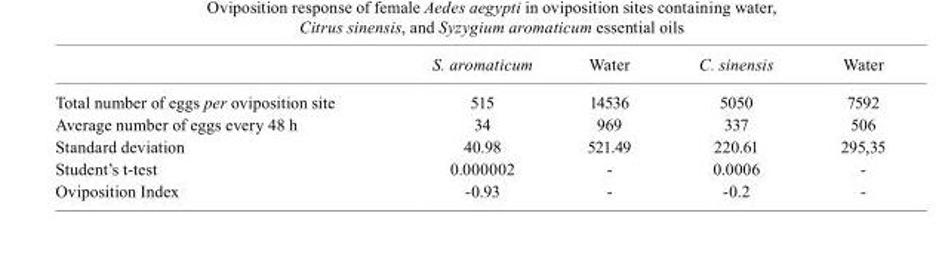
<table><thead><tr><td></td><td>S. aromaticum</td><td>Water</td><td>C. sinensis</td><td>Water</td></tr></thead><tbody><tr><td>Total number of eggs per oviposition site</td><td>515</td><td>14536</td><td>5050</td><td>7592</td></tr><tr><td>Average number of eggs every 48 h</td><td>34</td><td>969</td><td>337</td><td>506</td></tr><tr><td>Standard deviation</td><td>40.98</td><td>521.49</td><td>220.61</td><td>295,35</td></tr><tr><td>Student’s t-test</td><td>0.000002</td><td>-</td><td>0.0006</td><td>-</td></tr><tr><td>Oviposition Index</td><td>-0.93</td><td>-</td><td>-0.2</td><td>-</td></tr></tbody></table>